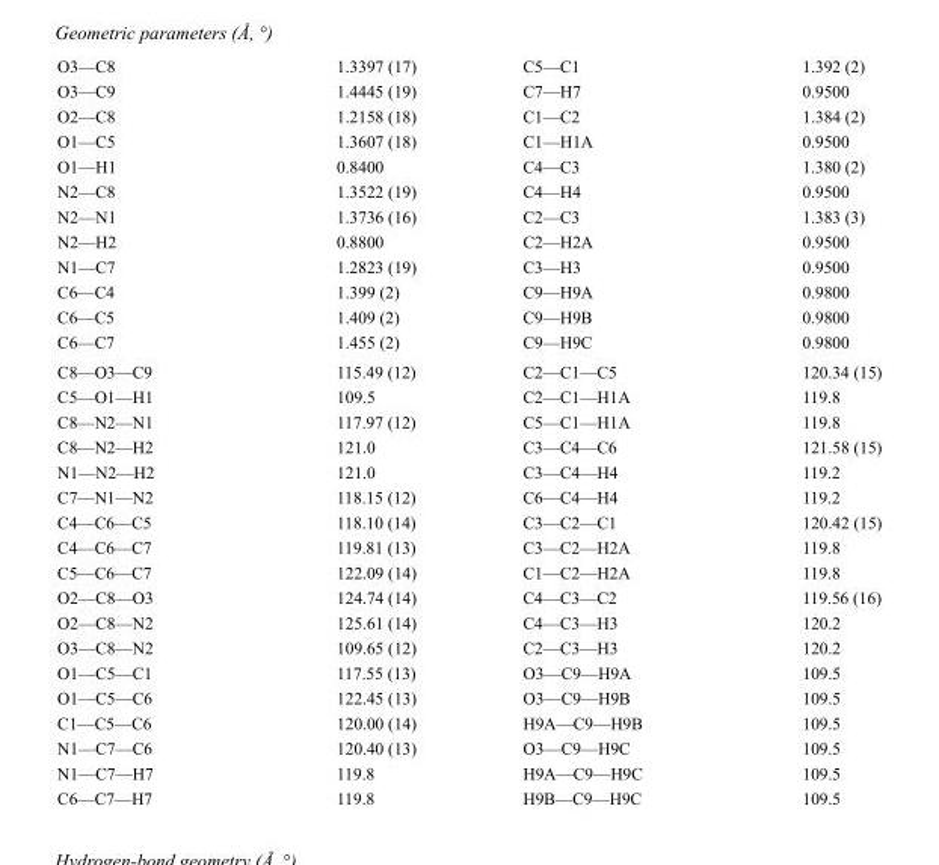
<table><tbody><tr><td>O3—C8</td><td>1.3397 (17)</td><td>C5—C1</td><td>1.392 (2)</td></tr><tr><td>O3—C9</td><td>1.4445 (19)</td><td>C7—H7</td><td>0.9500</td></tr><tr><td>O2—C8</td><td>1.2158 (18)</td><td>C1—C2</td><td>1.384 (2)</td></tr><tr><td>O1—C5</td><td>1.3607 (18)</td><td>C1—H1A</td><td>0.9500</td></tr><tr><td>O1—H1</td><td>0.8400</td><td>C4—C3</td><td>1.380 (2)</td></tr><tr><td>N2—C8</td><td>1.3522 (19)</td><td>C4—H4</td><td>0.9500</td></tr><tr><td>N2—N1</td><td>1.3736 (16)</td><td>C2—C3</td><td>1.383 (3)</td></tr><tr><td>N2—H2</td><td>0.8800</td><td>C2—H2A</td><td>0.9500</td></tr><tr><td>N1—C7</td><td>1.2823 (19)</td><td>C3—H3</td><td>0.9500</td></tr><tr><td>C6—C4</td><td>1.399 (2)</td><td>C9—H9A</td><td>0.9800</td></tr><tr><td>C6—C5</td><td>1.409 (2)</td><td>C9—H9B</td><td>0.9800</td></tr><tr><td>C6—C7</td><td>1.455 (2)</td><td>C9—H9C</td><td>0.9800</td></tr><tr><td>C8—O3—C9</td><td>115.49 (12)</td><td>C2—C1—C5</td><td>120.34 (15)</td></tr><tr><td>C5—O1—H1</td><td>109.5</td><td>C2—C1—H1A</td><td>119.8</td></tr><tr><td>C8—N2—N1</td><td>117.97 (12)</td><td>C5—C1—H1A</td><td>119.8</td></tr><tr><td>C8—N2—H2</td><td>121.0</td><td>C3—C4—C6</td><td>121.58 (15)</td></tr><tr><td>N1—N2—H2</td><td>121.0</td><td>C3—C4—H4</td><td>119.2</td></tr><tr><td>C7—N1—N2</td><td>118.15 (12)</td><td>C6—C4—H4</td><td>119.2</td></tr><tr><td>C4—C6—C5</td><td>118.10 (14)</td><td>C3—C2—C1</td><td>120.42 (15)</td></tr><tr><td>C4—C6—C7</td><td>119.81 (13)</td><td>C3—C2—H2A</td><td>119.8</td></tr><tr><td>C5—C6—C7</td><td>122.09 (14)</td><td>C1—C2—H2A</td><td>119.8</td></tr><tr><td>O2—C8—O3</td><td>124.74 (14)</td><td>C4—C3—C2</td><td>119.56 (16)</td></tr><tr><td>O2—C8—N2</td><td>125.61 (14)</td><td>C4—C3—H3</td><td>120.2</td></tr><tr><td>O3—C8—N2</td><td>109.65 (12)</td><td>C2—C3—H3</td><td>120.2</td></tr><tr><td>O1—C5—C1</td><td>117.55 (13)</td><td>O3—C9—H9A</td><td>109.5</td></tr><tr><td>O1—C5—C6</td><td>122.45 (13)</td><td>O3—C9—H9B</td><td>109.5</td></tr><tr><td>C1—C5—C6</td><td>120.00 (14)</td><td>H9A—C9—H9B</td><td>109.5</td></tr><tr><td>N1—C7—C6</td><td>120.40 (13)</td><td>O3—C9—H9C</td><td>109.5</td></tr><tr><td>N1—C7—H7</td><td>119.8</td><td>H9A—C9—H9C</td><td>109.5</td></tr><tr><td>C6—C7—H7</td><td>119.8</td><td>H9B—C9—H9C</td><td>109.5</td></tr></tbody></table>